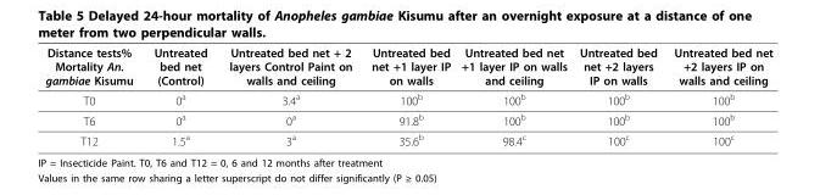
<table><thead><tr><td>Distance tests% Mortality An. gambiae Kisumu</td><td>Untreated bed net (Control)</td><td>Untreated bed net + 2 layers Control Paint on walls and ceiling</td><td>Untreated bed net +1 layer IP on walls</td><td>Untreated bed net +1 layer IP on walls and ceiling</td><td>Untreated bed net +2 layers IP on walls</td><td>Untreated bed net +2 layers IP on walls and ceiling</td></tr></thead><tbody><tr><td>T0</td><td>0a</td><td>3.4a</td><td>100b</td><td>100b</td><td>100b</td><td>100b</td></tr><tr><td>T6</td><td>0a</td><td>0a</td><td>91.8b</td><td>100b</td><td>100b</td><td>100b</td></tr><tr><td>T12</td><td>1.5a</td><td>3a</td><td>35.6b</td><td>98.4c</td><td>100c</td><td>100c</td></tr></tbody></table>